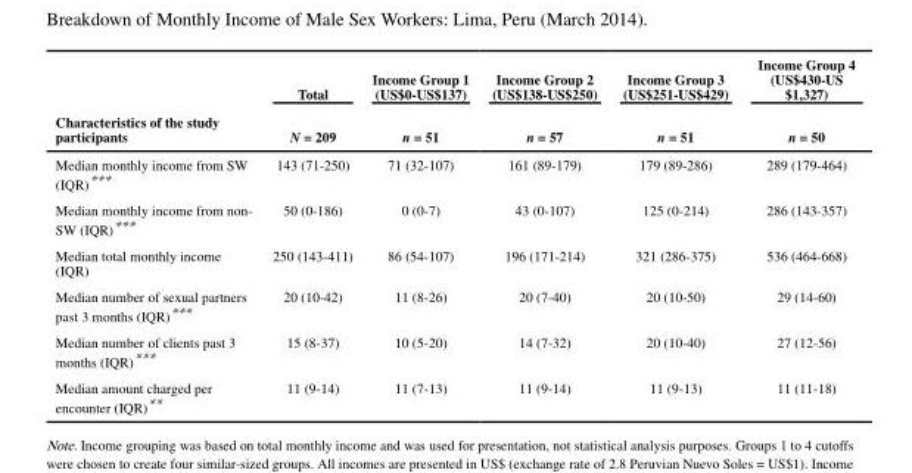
<table><thead><tr><td rowspan="2">Characteristics of the study participants</td><td rowspan="2">Total N = 209</td><td rowspan="2">Income Group 1 (US$0-US$137) n = 51</td><td rowspan="2">Income Group 2 (US$138-US$250) n = 57</td><td rowspan="2">Income Group 3 (US$251-US$429) n = 51</td><td rowspan="2">Income Group 4 (US$430-US $1,327) n = 50</td></tr><tr></tr></thead><tbody><tr><td>Median monthly income from SW (IQR)***</td><td>143 (71-250)</td><td>71 (32-107)</td><td>161 (89-179)</td><td>179 (89-286)</td><td>289 (179-464)</td></tr><tr><td>Median monthly income from non- SW (IQR)***</td><td>50 (0-186)</td><td>0 (0-7)</td><td>43 (0-107)</td><td>125 (0-214)</td><td>286 (143-357)</td></tr><tr><td>Median total monthly income (IQR)</td><td>250 (143-411)</td><td>86 (54-107)</td><td>196 (171-214)</td><td>321 (286-375)</td><td>536 (464-668)</td></tr><tr><td>Median number of sexual partners past 3 months (IQR)***</td><td>20 (10-42)</td><td>11 (8-26)</td><td>20 (7-40)</td><td>20 (10-50)</td><td>29 (14-60)</td></tr><tr><td>Median number of clients past 3 months (IQR)***</td><td>15 (8-37)</td><td>10 (5-20)</td><td>14 (7-32)</td><td>20 (10-40)</td><td>27 (12-56)</td></tr><tr><td>Median amount charged per encounter (IQR)**</td><td>11 (9-14)</td><td>11 (7-13)</td><td>11 (9-14)</td><td>11 (9-13)</td><td>11 (11-18)</td></tr></tbody></table>